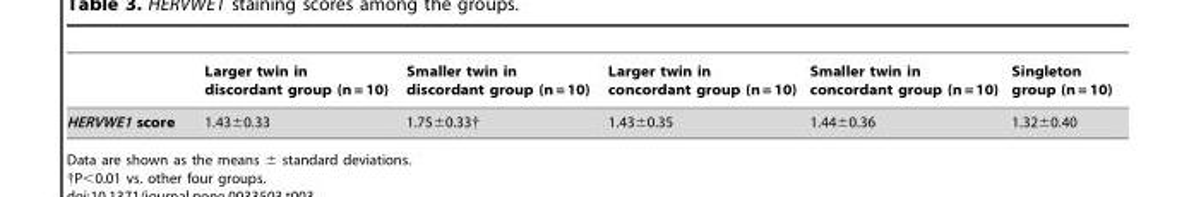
<table><thead><tr><td></td><td>Larger twin in discordant group (n = 10)</td><td>Smaller twin in discordant group (n = 10)</td><td>Larger twin in concordant group (n = 10)</td><td>Smaller twin in concordant group (n = 10)</td><td>Singleton group (n = 10)</td></tr></thead><tbody><tr><td>HERVWE1 score</td><td>1.43±0.33</td><td>1.75±0.33†</td><td>1.43±0.35</td><td>1.44±0.36</td><td>1.32±0.40</td></tr></tbody></table>